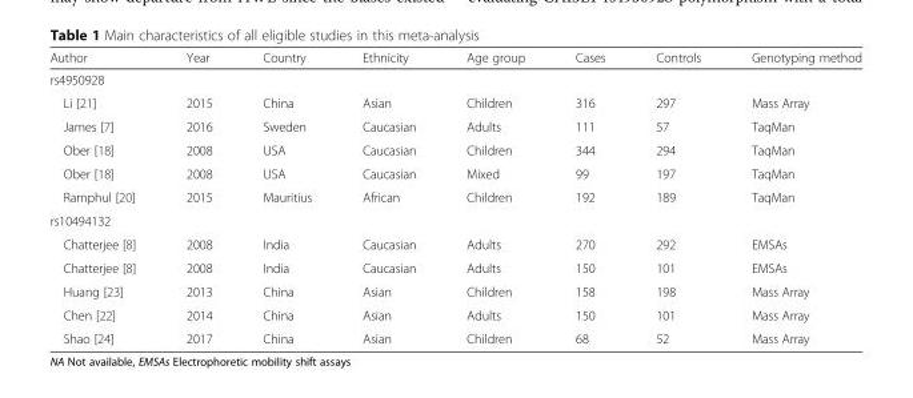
<table><thead><tr><td>Author</td><td>Year</td><td>Country</td><td>Ethnicity</td><td>Age group</td><td>Cases</td><td>Controls</td><td>Genotyping method</td></tr></thead><tbody><tr><td colspan="8">rs4950928</td></tr><tr><td>Li [21]</td><td>2015</td><td>China</td><td>Asian</td><td>Children</td><td>316</td><td>297</td><td>Mass Array</td></tr><tr><td>James [7]</td><td>2016</td><td>Sweden</td><td>Caucasian</td><td>Adults</td><td>111</td><td>57</td><td>TaqMan</td></tr><tr><td>Ober [18]</td><td>2008</td><td>USA</td><td>Caucasian</td><td>Children</td><td>344</td><td>294</td><td>TaqMan</td></tr><tr><td>Ober [18]</td><td>2008</td><td>USA</td><td>Caucasian</td><td>Mixed</td><td>99</td><td>197</td><td>TaqMan</td></tr><tr><td>Ramphul [20]</td><td>2015</td><td>Mauritius</td><td>African</td><td>Children</td><td>192</td><td>189</td><td>TaqMan</td></tr><tr><td colspan="8">rs10494132</td></tr><tr><td>Chatterjee [8]</td><td>2008</td><td>India</td><td>Caucasian</td><td>Adults</td><td>270</td><td>292</td><td>EMSAs</td></tr><tr><td>Chatterjee [8]</td><td>2008</td><td>India</td><td>Caucasian</td><td>Adults</td><td>150</td><td>101</td><td>EMSAs</td></tr><tr><td>Huang [23]</td><td>2013</td><td>China</td><td>Asian</td><td>Children</td><td>158</td><td>198</td><td>Mass Array</td></tr><tr><td>Chen [22]</td><td>2014</td><td>China</td><td>Asian</td><td>Adults</td><td>150</td><td>101</td><td>Mass Array</td></tr><tr><td>Shao [24]</td><td>2017</td><td>China</td><td>Asian</td><td>Children</td><td>68</td><td>52</td><td>Mass Array</td></tr></tbody></table>